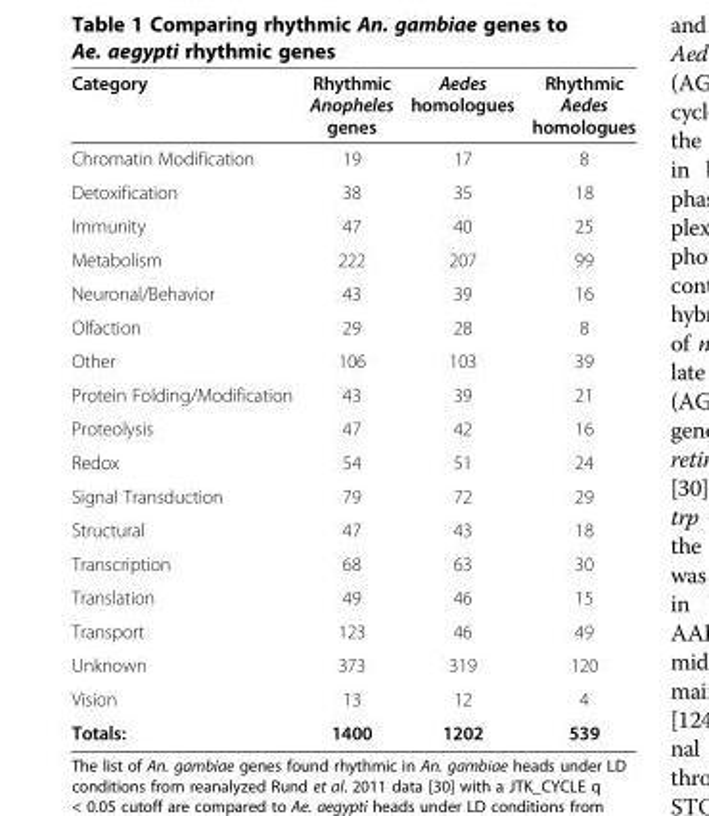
<table><thead><tr><td>Category</td><td>Rhythmic Anopheles genes</td><td>Aedes homologues</td><td>Rhythmic Aedes homologues</td></tr></thead><tbody><tr><td>Chromatin Modification</td><td>19</td><td>17</td><td>8</td></tr><tr><td>Detoxification</td><td>38</td><td>35</td><td>18</td></tr><tr><td>Immunity</td><td>47</td><td>40</td><td>25</td></tr><tr><td>Metabolism</td><td>222</td><td>207</td><td>99</td></tr><tr><td>Neuronal/Behavior</td><td>43</td><td>39</td><td>16</td></tr><tr><td>Olfaction</td><td>29</td><td>28</td><td>8</td></tr><tr><td>Other</td><td>106</td><td>103</td><td>39</td></tr><tr><td>Protein Folding/Modification</td><td>43</td><td>39</td><td>21</td></tr><tr><td>Proteolysis</td><td>47</td><td>42</td><td>16</td></tr><tr><td>Redox</td><td>54</td><td>51</td><td>24</td></tr><tr><td>Signal Transduction</td><td>79</td><td>72</td><td>29</td></tr><tr><td>Structural</td><td>47</td><td>43</td><td>18</td></tr><tr><td>Transcription</td><td>68</td><td>63</td><td>30</td></tr><tr><td>Translation</td><td>49</td><td>46</td><td>15</td></tr><tr><td>Transport</td><td>123</td><td>46</td><td>49</td></tr><tr><td>Unknown</td><td>373</td><td>319</td><td>120</td></tr><tr><td>Vision</td><td>13</td><td>12</td><td>4</td></tr><tr><td>Totals:</td><td>1400</td><td>1202</td><td>539</td></tr></tbody></table>